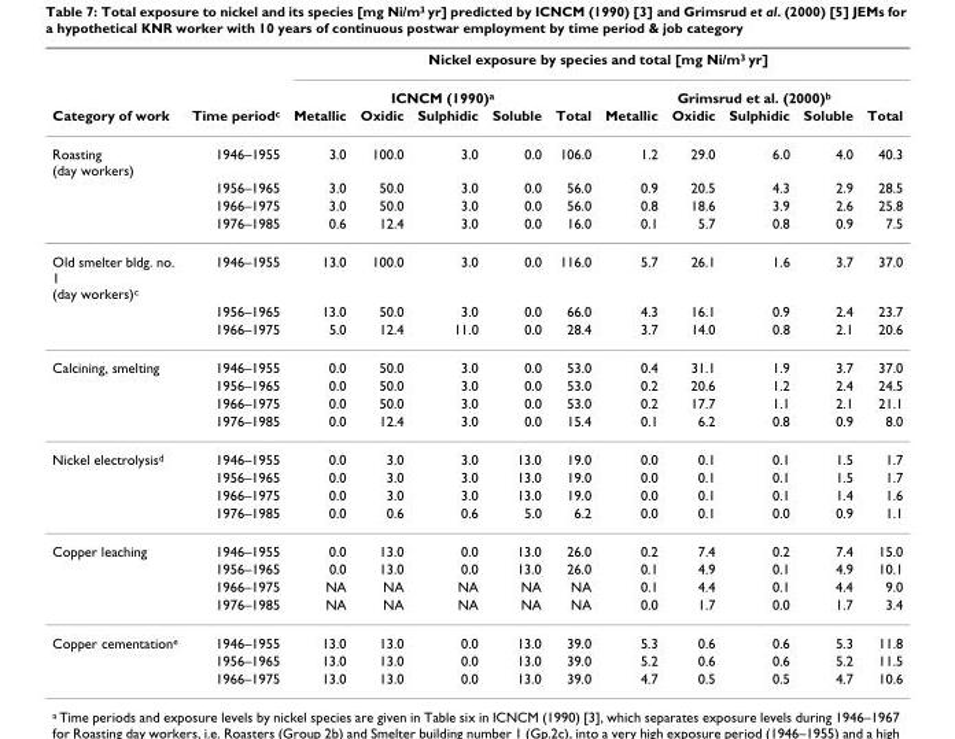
<table><thead><tr><td rowspan="3">Category of work</td><td rowspan="3">Time period<sup>c</sup></td><td colspan="10">Nickel exposure by species and total [mg Ni/m<sup>3</sup> yr]</td></tr><tr><td colspan="5">ICNCM (1990)<sup>a</sup></td><td colspan="5">Grimsrud et al. (2000)<sup>b</sup></td></tr><tr><td>Metallic</td><td>Oxidic</td><td>Sulphidic</td><td>Soluble</td><td>Total</td><td>Metallic</td><td>Oxidic</td><td>Sulphidic</td><td>Soluble</td><td>Total</td></tr></thead><tbody><tr><td rowspan="4">Roasting (day workers)</td><td>1946–1955</td><td>3.0</td><td>100.0</td><td>3.0</td><td>0.0</td><td>106.0</td><td>1.2</td><td>29.0</td><td>6.0</td><td>4.0</td><td>40.3</td></tr><tr><td>1956–1965</td><td>3.0</td><td>50.0</td><td>3.0</td><td>0.0</td><td>56.0</td><td>0.9</td><td>20.5</td><td>4.3</td><td>2.9</td><td>28.5</td></tr><tr><td>1966–1975</td><td>3.0</td><td>50.0</td><td>3.0</td><td>0.0</td><td>56.0</td><td>0.8</td><td>18.6</td><td>3.9</td><td>2.6</td><td>25.8</td></tr><tr><td>1976–1985</td><td>0.6</td><td>12.4</td><td>3.0</td><td>0.0</td><td>16.0</td><td>0.1</td><td>5.7</td><td>0.8</td><td>0.9</td><td>7.5</td></tr><tr><td rowspan="3">Old smelter bldg. no. 1 (day workers)<sup>c</sup></td><td>1946–1955</td><td>13.0</td><td>100.0</td><td>3.0</td><td>0.0</td><td>116.0</td><td>5.7</td><td>26.1</td><td>1.6</td><td>3.7</td><td>37.0</td></tr><tr><td>1956–1965</td><td>13.0</td><td>50.0</td><td>3.0</td><td>0.0</td><td>66.0</td><td>4.3</td><td>16.1</td><td>0.9</td><td>2.4</td><td>23.7</td></tr><tr><td>1966–1975</td><td>5.0</td><td>12.4</td><td>11.0</td><td>0.0</td><td>28.4</td><td>3.7</td><td>14.0</td><td>0.8</td><td>2.1</td><td>20.6</td></tr><tr><td rowspan="4">Calcining, smelting</td><td>1946–1955</td><td>0.0</td><td>50.0</td><td>3.0</td><td>0.0</td><td>53.0</td><td>0.4</td><td>31.1</td><td>1.9</td><td>3.7</td><td>37.0</td></tr><tr><td>1956–1965</td><td>0.0</td><td>50.0</td><td>3.0</td><td>0.0</td><td>53.0</td><td>0.2</td><td>20.6</td><td>1.2</td><td>2.4</td><td>24.5</td></tr><tr><td>1966–1975</td><td>0.0</td><td>50.0</td><td>3.0</td><td>0.0</td><td>53.0</td><td>0.2</td><td>17.7</td><td>1.1</td><td>2.1</td><td>21.1</td></tr><tr><td>1976–1985</td><td>0.0</td><td>12.4</td><td>3.0</td><td>0.0</td><td>15.4</td><td>0.1</td><td>6.2</td><td>0.8</td><td>0.9</td><td>8.0</td></tr><tr><td rowspan="4">Nickel electrolysis<sup>d</sup></td><td>1946–1955</td><td>0.0</td><td>3.0</td><td>3.0</td><td>13.0</td><td>19.0</td><td>0.0</td><td>0.1</td><td>0.1</td><td>1.5</td><td>1.7</td></tr><tr><td>1956–1965</td><td>0.0</td><td>3.0</td><td>3.0</td><td>13.0</td><td>19.0</td><td>0.0</td><td>0.1</td><td>0.1</td><td>1.5</td><td>1.7</td></tr><tr><td>1966–1975</td><td>0.0</td><td>3.0</td><td>3.0</td><td>13.0</td><td>19.0</td><td>0.0</td><td>0.1</td><td>0.1</td><td>1.4</td><td>1.6</td></tr><tr><td>1976–1985</td><td>0.0</td><td>0.6</td><td>0.6</td><td>5.0</td><td>6.2</td><td>0.0</td><td>0.1</td><td>0.0</td><td>0.9</td><td>1.1</td></tr><tr><td rowspan="4">Copper leaching</td><td>1946–1955</td><td>0.0</td><td>13.0</td><td>0.0</td><td>13.0</td><td>26.0</td><td>0.2</td><td>7.4</td><td>0.2</td><td>7.4</td><td>15.0</td></tr><tr><td>1956–1965</td><td>0.0</td><td>13.0</td><td>0.0</td><td>13.0</td><td>26.0</td><td>0.1</td><td>4.9</td><td>0.1</td><td>4.9</td><td>10.1</td></tr><tr><td>1966–1975</td><td>NA</td><td>NA</td><td>NA</td><td>NA</td><td>NA</td><td>0.1</td><td>4.4</td><td>0.1</td><td>4.4</td><td>9.0</td></tr><tr><td>1976–1985</td><td>NA</td><td>NA</td><td>NA</td><td>NA</td><td>NA</td><td>0.0</td><td>1.7</td><td>0.0</td><td>1.7</td><td>3.4</td></tr><tr><td rowspan="3">Copper cementation<sup>e</sup></td><td>1946–1955</td><td>13.0</td><td>13.0</td><td>0.0</td><td>13.0</td><td>39.0</td><td>5.3</td><td>0.6</td><td>0.6</td><td>5.3</td><td>11.8</td></tr><tr><td>1956–1965</td><td>13.0</td><td>13.0</td><td>0.0</td><td>13.0</td><td>39.0</td><td>5.2</td><td>0.6</td><td>0.6</td><td>5.2</td><td>11.5</td></tr><tr><td>1966–1975</td><td>13.0</td><td>13.0</td><td>0.0</td><td>13.0</td><td>39.0</td><td>4.7</td><td>0.5</td><td>0.5</td><td>4.7</td><td>10.6</td></tr></tbody></table>